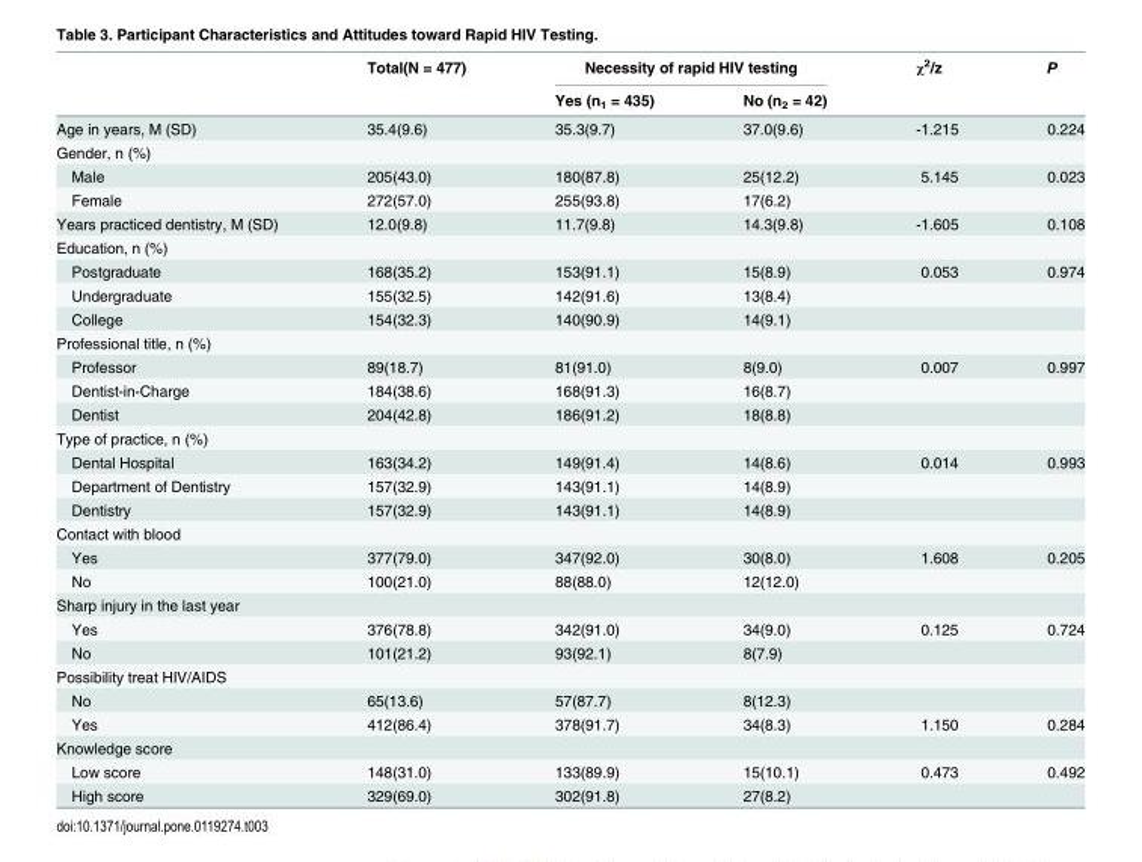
<table><thead><tr><td rowspan="2"></td><td rowspan="2">Total(N = 477)</td><td colspan="2">Necessity of rapid HIV testing</td><td rowspan="2">χ<sup>2</sup>/z</td><td rowspan="2">P</td></tr><tr><td>Yes (n<sub>1</sub> = 435)</td><td>No (n<sub>2</sub> = 42)</td></tr></thead><tbody><tr><td>Age in years, M (SD)</td><td>35.4(9.6)</td><td>35.3(9.7)</td><td>37.0(9.6)</td><td>-1.215</td><td>0.224</td></tr><tr><td colspan="6">Gender, n (%)</td></tr><tr><td>Male</td><td>205(43.0)</td><td>180(87.8)</td><td>25(12.2)</td><td>5.145</td><td>0.023</td></tr><tr><td>Female</td><td>272(57.0)</td><td>255(93.8)</td><td>17(6.2)</td><td></td><td></td></tr><tr><td>Years practiced dentistry, M (SD)</td><td>12.0(9.8)</td><td>11.7(9.8)</td><td>14.3(9.8)</td><td>-1.605</td><td>0.108</td></tr><tr><td colspan="6">Education, n (%)</td></tr><tr><td>Postgraduate</td><td>168(35.2)</td><td>153(91.1)</td><td>15(8.9)</td><td>0.053</td><td>0.974</td></tr><tr><td>Undergraduate</td><td>155(32.5)</td><td>142(91.6)</td><td>13(8.4)</td><td></td><td></td></tr><tr><td>College</td><td>154(32.3)</td><td>140(90.9)</td><td>14(9.1)</td><td></td><td></td></tr><tr><td colspan="6">Professional title, n (%)</td></tr><tr><td>Professor</td><td>89(18.7)</td><td>81(91.0)</td><td>8(9.0)</td><td>0.007</td><td>0.997</td></tr><tr><td>Dentist-in-Charge</td><td>184(38.6)</td><td>168(91.3)</td><td>16(8.7)</td><td></td><td></td></tr><tr><td>Dentist</td><td>204(42.8)</td><td>186(91.2)</td><td>18(8.8)</td><td></td><td></td></tr><tr><td colspan="6">Type of practice, n (%)</td></tr><tr><td>Dental Hospital</td><td>163(34.2)</td><td>149(91.4)</td><td>14(8.6)</td><td>0.014</td><td>0.993</td></tr><tr><td>Department of Dentistry</td><td>157(32.9)</td><td>143(91.1)</td><td>14(8.9)</td><td></td><td></td></tr><tr><td>Dentistry</td><td>157(32.9)</td><td>143(91.1)</td><td>14(8.9)</td><td></td><td></td></tr><tr><td colspan="6">Contact with blood</td></tr><tr><td>Yes</td><td>377(79.0)</td><td>347(92.0)</td><td>30(8.0)</td><td>1.608</td><td>0.205</td></tr><tr><td>No</td><td>100(21.0)</td><td>88(88.0)</td><td>12(12.0)</td><td></td><td></td></tr><tr><td colspan="6">Sharp injury in the last year</td></tr><tr><td>Yes</td><td>376(78.8)</td><td>342(91.0)</td><td>34(9.0)</td><td>0.125</td><td>0.724</td></tr><tr><td>No</td><td>101(21.2)</td><td>93(92.1)</td><td>8(7.9)</td><td></td><td></td></tr><tr><td colspan="6">Possibility treat HIV/AIDS</td></tr><tr><td>No</td><td>65(13.6)</td><td>57(87.7)</td><td>8(12.3)</td><td></td><td></td></tr><tr><td>Yes</td><td>412(86.4)</td><td>378(91.7)</td><td>34(8.3)</td><td>1.150</td><td>0.284</td></tr><tr><td colspan="6">Knowledge score</td></tr><tr><td>Low score</td><td>148(31.0)</td><td>133(89.9)</td><td>15(10.1)</td><td>0.473</td><td>0.492</td></tr><tr><td>High score</td><td>329(69.0)</td><td>302(91.8)</td><td>27(8.2)</td><td></td><td></td></tr></tbody></table>